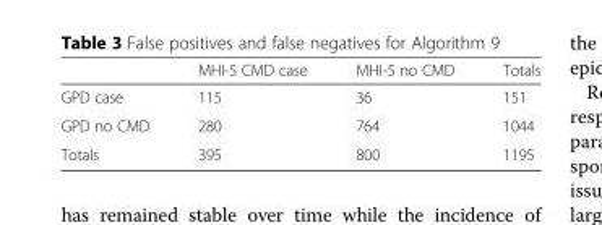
<table><thead><tr><td></td><td>MHI-5 CMD case</td><td>MHI-5 no CMD</td><td>Totals</td></tr></thead><tbody><tr><td>GPD case</td><td>115</td><td>36</td><td>151</td></tr><tr><td>GPD no CMD</td><td>280</td><td>764</td><td>1044</td></tr><tr><td>Totals</td><td>395</td><td>800</td><td>1195</td></tr></tbody></table>